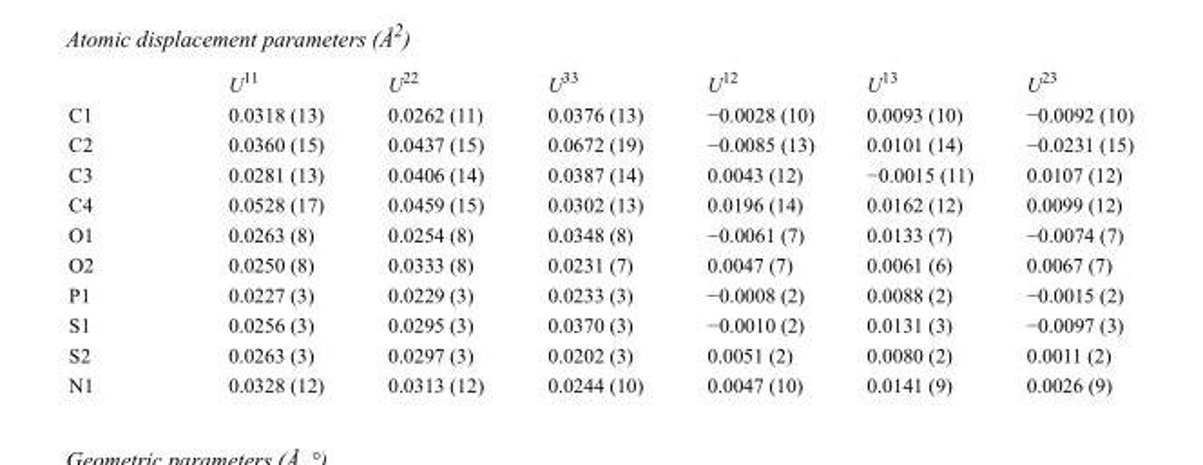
<table><thead><tr><td></td><td>U<sup>11</sup></td><td>U<sup>22</sup></td><td>U<sup>33</sup></td><td>U<sup>12</sup></td><td>U<sup>13</sup></td><td>U<sup>23</sup></td></tr></thead><tbody><tr><td>C1</td><td>0.0318 (13)</td><td>0.0262 (11)</td><td>0.0376 (13)</td><td>−0.0028 (10)</td><td>0.0093 (10)</td><td>−0.0092 (10)</td></tr><tr><td>C2</td><td>0.0360 (15)</td><td>0.0437 (15)</td><td>0.0672 (19)</td><td>−0.0085 (13)</td><td>0.0101 (14)</td><td>−0.0231 (15)</td></tr><tr><td>C3</td><td>0.0281 (13)</td><td>0.0406 (14)</td><td>0.0387 (14)</td><td>0.0043 (12)</td><td>−0.0015 (11)</td><td>0.0107 (12)</td></tr><tr><td>C4</td><td>0.0528 (17)</td><td>0.0459 (15)</td><td>0.0302 (13)</td><td>0.0196 (14)</td><td>0.0162 (12)</td><td>0.0099 (12)</td></tr><tr><td>O1</td><td>0.0263 (8)</td><td>0.0254 (8)</td><td>0.0348 (8)</td><td>−0.0061 (7)</td><td>0.0133 (7)</td><td>−0.0074 (7)</td></tr><tr><td>O2</td><td>0.0250 (8)</td><td>0.0333 (8)</td><td>0.0231 (7)</td><td>0.0047 (7)</td><td>0.0061 (6)</td><td>0.0067 (7)</td></tr><tr><td>P1</td><td>0.0227 (3)</td><td>0.0229 (3)</td><td>0.0233 (3)</td><td>−0.0008 (2)</td><td>0.0088 (2)</td><td>−0.0015 (2)</td></tr><tr><td>S1</td><td>0.0256 (3)</td><td>0.0295 (3)</td><td>0.0370 (3)</td><td>−0.0010 (2)</td><td>0.0131 (3)</td><td>−0.0097 (3)</td></tr><tr><td>S2</td><td>0.0263 (3)</td><td>0.0297 (3)</td><td>0.0202 (3)</td><td>0.0051 (2)</td><td>0.0080 (2)</td><td>0.0011 (2)</td></tr><tr><td>N1</td><td>0.0328 (12)</td><td>0.0313 (12)</td><td>0.0244 (10)</td><td>0.0047 (10)</td><td>0.0141 (9)</td><td>0.0026 (9)</td></tr></tbody></table>